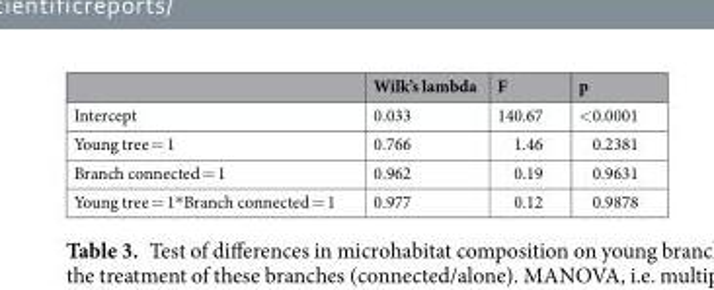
<table><thead><tr><td></td><td>Wilk’s lambda</td><td>F</td><td>p</td></tr></thead><tbody><tr><td>Intercept</td><td>0.033</td><td>140.67</td><td>&lt;0.0001</td></tr><tr><td>Young tree = 1</td><td>0.766</td><td>1.46</td><td>0.2381</td></tr><tr><td>Branch connected = 1</td><td>0.962</td><td>0.19</td><td>0.9631</td></tr><tr><td>Young tree = 1*Branch connected = 1</td><td>0.977</td><td>0.12</td><td>0.9878</td></tr></tbody></table>